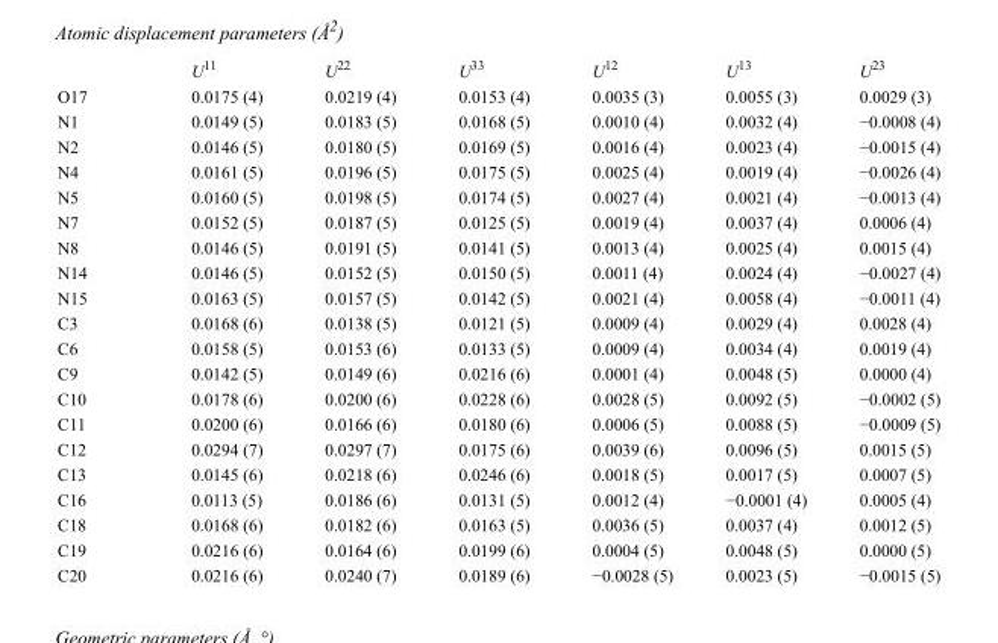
<table><thead><tr><td></td><td>U<sup>11</sup></td><td>U<sup>22</sup></td><td>U<sup>33</sup></td><td>U<sup>12</sup></td><td>U<sup>13</sup></td><td>U<sup>23</sup></td></tr></thead><tbody><tr><td>O17</td><td>0.0175 (4)</td><td>0.0219 (4)</td><td>0.0153 (4)</td><td>0.0035 (3)</td><td>0.0055 (3)</td><td>0.0029 (3)</td></tr><tr><td>N1</td><td>0.0149 (5)</td><td>0.0183 (5)</td><td>0.0168 (5)</td><td>0.0010 (4)</td><td>0.0032 (4)</td><td>−0.0008 (4)</td></tr><tr><td>N2</td><td>0.0146 (5)</td><td>0.0180 (5)</td><td>0.0169 (5)</td><td>0.0016 (4)</td><td>0.0023 (4)</td><td>−0.0015 (4)</td></tr><tr><td>N4</td><td>0.0161 (5)</td><td>0.0196 (5)</td><td>0.0175 (5)</td><td>0.0025 (4)</td><td>0.0019 (4)</td><td>−0.0026 (4)</td></tr><tr><td>N5</td><td>0.0160 (5)</td><td>0.0198 (5)</td><td>0.0174 (5)</td><td>0.0027 (4)</td><td>0.0021 (4)</td><td>−0.0013 (4)</td></tr><tr><td>N7</td><td>0.0152 (5)</td><td>0.0187 (5)</td><td>0.0125 (5)</td><td>0.0019 (4)</td><td>0.0037 (4)</td><td>0.0006 (4)</td></tr><tr><td>N8</td><td>0.0146 (5)</td><td>0.0191 (5)</td><td>0.0141 (5)</td><td>0.0013 (4)</td><td>0.0025 (4)</td><td>0.0015 (4)</td></tr><tr><td>N14</td><td>0.0146 (5)</td><td>0.0152 (5)</td><td>0.0150 (5)</td><td>0.0011 (4)</td><td>0.0024 (4)</td><td>−0.0027 (4)</td></tr><tr><td>N15</td><td>0.0163 (5)</td><td>0.0157 (5)</td><td>0.0142 (5)</td><td>0.0021 (4)</td><td>0.0058 (4)</td><td>−0.0011 (4)</td></tr><tr><td>C3</td><td>0.0168 (6)</td><td>0.0138 (5)</td><td>0.0121 (5)</td><td>0.0009 (4)</td><td>0.0029 (4)</td><td>0.0028 (4)</td></tr><tr><td>C6</td><td>0.0158 (5)</td><td>0.0153 (6)</td><td>0.0133 (5)</td><td>0.0009 (4)</td><td>0.0034 (4)</td><td>0.0019 (4)</td></tr><tr><td>C9</td><td>0.0142 (5)</td><td>0.0149 (6)</td><td>0.0216 (6)</td><td>0.0001 (4)</td><td>0.0048 (5)</td><td>0.0000 (4)</td></tr><tr><td>C10</td><td>0.0178 (6)</td><td>0.0200 (6)</td><td>0.0228 (6)</td><td>0.0028 (5)</td><td>0.0092 (5)</td><td>−0.0002 (5)</td></tr><tr><td>C11</td><td>0.0200 (6)</td><td>0.0166 (6)</td><td>0.0180 (6)</td><td>0.0006 (5)</td><td>0.0088 (5)</td><td>−0.0009 (5)</td></tr><tr><td>C12</td><td>0.0294 (7)</td><td>0.0297 (7)</td><td>0.0175 (6)</td><td>0.0039 (6)</td><td>0.0096 (5)</td><td>0.0015 (5)</td></tr><tr><td>C13</td><td>0.0145 (6)</td><td>0.0218 (6)</td><td>0.0246 (6)</td><td>0.0018 (5)</td><td>0.0017 (5)</td><td>0.0007 (5)</td></tr><tr><td>C16</td><td>0.0113 (5)</td><td>0.0186 (6)</td><td>0.0131 (5)</td><td>0.0012 (4)</td><td>−0.0001 (4)</td><td>0.0005 (4)</td></tr><tr><td>C18</td><td>0.0168 (6)</td><td>0.0182 (6)</td><td>0.0163 (5)</td><td>0.0036 (5)</td><td>0.0037 (4)</td><td>0.0012 (5)</td></tr><tr><td>C19</td><td>0.0216 (6)</td><td>0.0164 (6)</td><td>0.0199 (6)</td><td>0.0004 (5)</td><td>0.0048 (5)</td><td>0.0000 (5)</td></tr><tr><td>C20</td><td>0.0216 (6)</td><td>0.0240 (7)</td><td>0.0189 (6)</td><td>−0.0028 (5)</td><td>0.0023 (5)</td><td>−0.0015 (5)</td></tr></tbody></table>